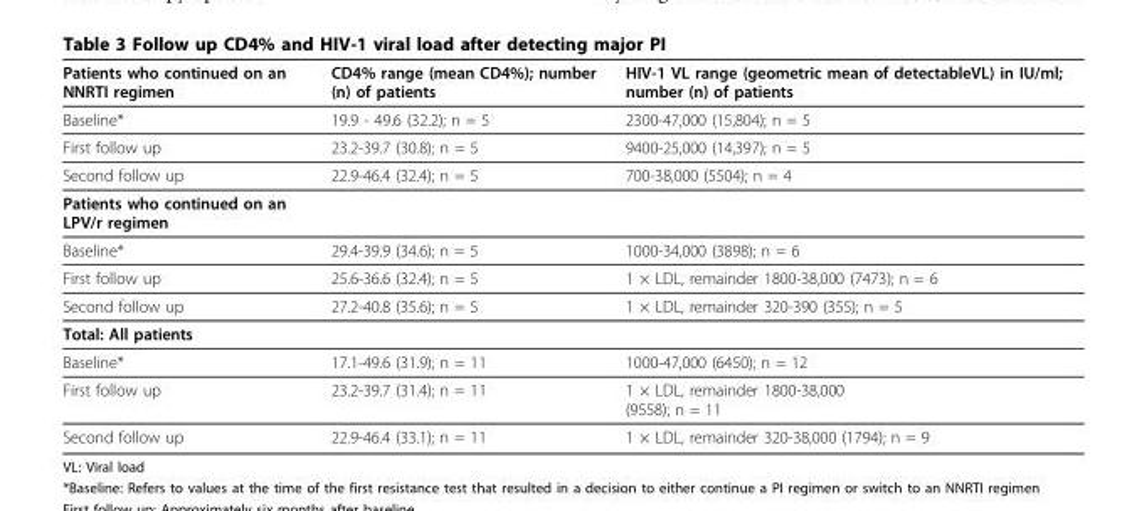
<table><thead><tr><td>Patients who continued on an NNRTI regimen</td><td>CD4% range (mean CD4%); number (n) of patients</td><td>HIV-1 VL range (geometric mean of detectableVL) in IU/ml; number (n) of patients</td></tr></thead><tbody><tr><td>Baseline*</td><td>19.9 - 49.6 (32.2); n = 5</td><td>2300-47,000 (15,804); n = 5</td></tr><tr><td>First follow up</td><td>23.2-39.7 (30.8); n = 5</td><td>9400-25,000 (14,397); n = 5</td></tr><tr><td>Second follow up</td><td>22.9-46.4 (32.4); n = 5</td><td>700-38,000 (5504); n = 4</td></tr><tr><td colspan="3">Patients who continued on an LPV/r regimen</td></tr><tr><td>Baseline*</td><td>29.4-39.9 (34.6); n = 5</td><td>1000-34,000 (3898); n = 6</td></tr><tr><td>First follow up</td><td>25.6-36.6 (32.4); n = 5</td><td>1 × LDL, remainder 1800-38,000 (7473); n = 6</td></tr><tr><td>Second follow up</td><td>27.2-40.8 (35.6); n = 5</td><td>1 × LDL, remainder 320-390 (355); n = 5</td></tr><tr><td colspan="3">Total: All patients</td></tr><tr><td>Baseline*</td><td>17.1-49.6 (31.9); n = 11</td><td>1000-47,000 (6450); n = 12</td></tr><tr><td>First follow up</td><td>23.2-39.7 (31.4); n = 11</td><td>1 × LDL, remainder 1800-38,000 (9558); n = 11</td></tr><tr><td>Second follow up</td><td>22.9-46.4 (33.1); n = 11</td><td>1 × LDL, remainder 320-38,000 (1794); n = 9</td></tr></tbody></table>